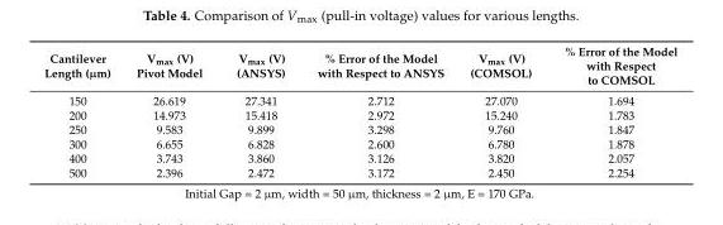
<table><thead><tr><td>Cantilever Length (µm)</td><td>V<sub>max</sub> (V) Pivot Model</td><td>V<sub>max</sub> (V) (ANSYS)</td><td>% Error of the Model with Respect to ANSYS</td><td>V<sub>max</sub> (V) (COMSOL)</td><td>% Error of the Model with Respect to COMSOL</td></tr></thead><tbody><tr><td>150</td><td>26.619</td><td>27.341</td><td>2.712</td><td>27.070</td><td>1.694</td></tr><tr><td>200</td><td>14.973</td><td>15.418</td><td>2.972</td><td>15.240</td><td>1.783</td></tr><tr><td>250</td><td>9.583</td><td>9.899</td><td>3.298</td><td>9.760</td><td>1.847</td></tr><tr><td>300</td><td>6.655</td><td>6.828</td><td>2.600</td><td>6.780</td><td>1.878</td></tr><tr><td>400</td><td>3.743</td><td>3.860</td><td>3.126</td><td>3.820</td><td>2.057</td></tr><tr><td>500</td><td>2.396</td><td>2.472</td><td>3.172</td><td>2.450</td><td>2.254</td></tr></tbody></table>